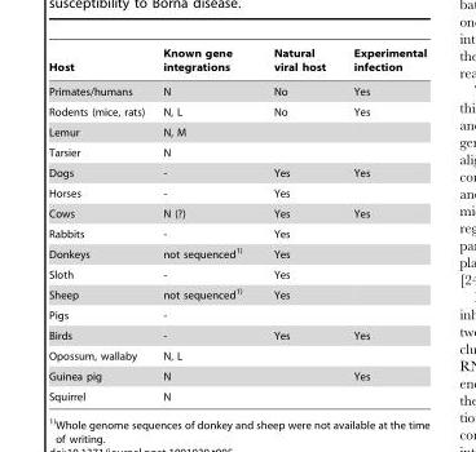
<table><thead><tr><td>Host</td><td>Known gene integrations</td><td>Natural viral host</td><td>Experimental infection</td></tr></thead><tbody><tr><td>Primates/humans</td><td>N</td><td>No</td><td>Yes</td></tr><tr><td>Rodents (mice, rats)</td><td>N, L</td><td>No</td><td>Yes</td></tr><tr><td>Lemur</td><td>N, M</td><td></td><td></td></tr><tr><td>Tarsier</td><td>N</td><td></td><td></td></tr><tr><td>Dogs</td><td>-</td><td>Yes</td><td>Yes</td></tr><tr><td>Horses</td><td>-</td><td>Yes</td><td></td></tr><tr><td>Cows</td><td>N (?)</td><td>Yes</td><td>Yes</td></tr><tr><td>Rabbits</td><td>-</td><td>Yes</td><td></td></tr><tr><td>Donkeys</td><td>not sequenced1)</td><td>Yes</td><td></td></tr><tr><td>Sloth</td><td>-</td><td>Yes</td><td></td></tr><tr><td>Sheep</td><td>not sequenced1)</td><td>Yes</td><td></td></tr><tr><td>Pigs</td><td>-</td><td></td><td></td></tr><tr><td>Birds</td><td>-</td><td>Yes</td><td>Yes</td></tr><tr><td>Opossum, wallaby</td><td>N, L</td><td></td><td></td></tr><tr><td>Guinea pig</td><td>N</td><td></td><td>Yes</td></tr><tr><td>Squirrel</td><td>N</td><td></td><td></td></tr></tbody></table>